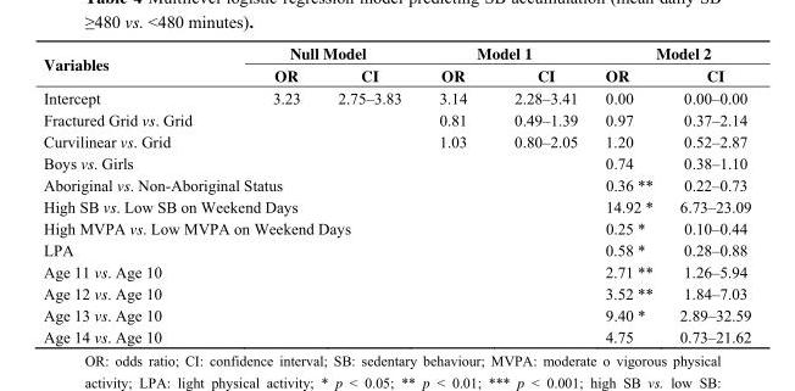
<table><thead><tr><td rowspan="2">Variables</td><td colspan="2">Null Model</td><td colspan="2">Model 1</td><td colspan="2">Model 2</td></tr><tr><td>OR</td><td>CI</td><td>OR</td><td>CI</td><td>OR</td><td>CI</td></tr></thead><tbody><tr><td>Intercept</td><td>3.23</td><td>2.75–3.83</td><td>3.14</td><td>2.28–3.41</td><td>0.00</td><td>0.00–0.00</td></tr><tr><td>Fractured Grid vs. Grid</td><td></td><td></td><td>0.81</td><td>0.49–1.39</td><td>0.97</td><td>0.37–2.14</td></tr><tr><td>Curvilinear vs. Grid</td><td></td><td></td><td>1.03</td><td>0.80–2.05</td><td>1.20</td><td>0.52–2.87</td></tr><tr><td>Boys vs. Girls</td><td></td><td></td><td></td><td></td><td>0.74</td><td>0.38–1.10</td></tr><tr><td colspan="2">Aboriginal vs. Non-Aboriginal Status</td><td></td><td></td><td></td><td>0.36 **</td><td>0.22–0.73</td></tr><tr><td colspan="2">High SB vs. Low SB on Weekend Days</td><td></td><td></td><td></td><td>14.92 *</td><td>6.73–23.09</td></tr><tr><td colspan="3">High MVPA vs. Low MVPA on Weekend Days</td><td></td><td></td><td>0.25 *</td><td>0.10–0.44</td></tr><tr><td>LPA</td><td></td><td></td><td></td><td></td><td>0.58 *</td><td>0.28–0.88</td></tr><tr><td>Age 11 vs. Age 10</td><td></td><td></td><td></td><td></td><td>2.71 **</td><td>1.26–5.94</td></tr><tr><td>Age 12 vs. Age 10</td><td></td><td></td><td></td><td></td><td>3.52 **</td><td>1.84–7.03</td></tr><tr><td>Age 13 vs. Age 10</td><td></td><td></td><td></td><td></td><td>9.40 *</td><td>2.89–32.59</td></tr><tr><td>Age 14 vs. Age 10</td><td></td><td></td><td></td><td></td><td>4.75</td><td>0.73–21.62</td></tr></tbody></table>